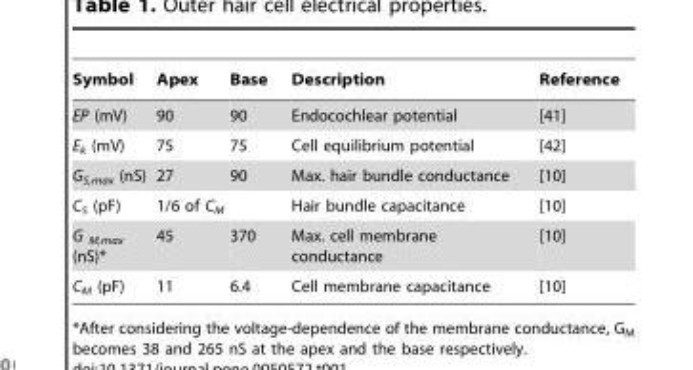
<table><thead><tr><td>Symbol</td><td>Apex</td><td>Base</td><td>Description</td><td>Reference</td></tr></thead><tbody><tr><td>EP (mV)</td><td>90</td><td>90</td><td>Endocochlear potential</td><td>[41]</td></tr><tr><td>E<sub>k</sub> (mV)</td><td>75</td><td>75</td><td>Cell equilibrium potential</td><td>[42]</td></tr><tr><td>G<sub>S,max</sub> (nS)</td><td>27</td><td>90</td><td>Max. hair bundle conductance</td><td>[10]</td></tr><tr><td>C<sub>S</sub> (pF)</td><td colspan="2">1/6 of C<sub>M</sub></td><td>Hair bundle capacitance</td><td>[10]</td></tr><tr><td>G <sub>M,max</sub> (nS)*</td><td>45</td><td>370</td><td>Max. cell membrane conductance</td><td>[10]</td></tr><tr><td>C<sub>M</sub> (pF)</td><td>11</td><td>6.4</td><td>Cell membrane capacitance</td><td>[10]</td></tr></tbody></table>